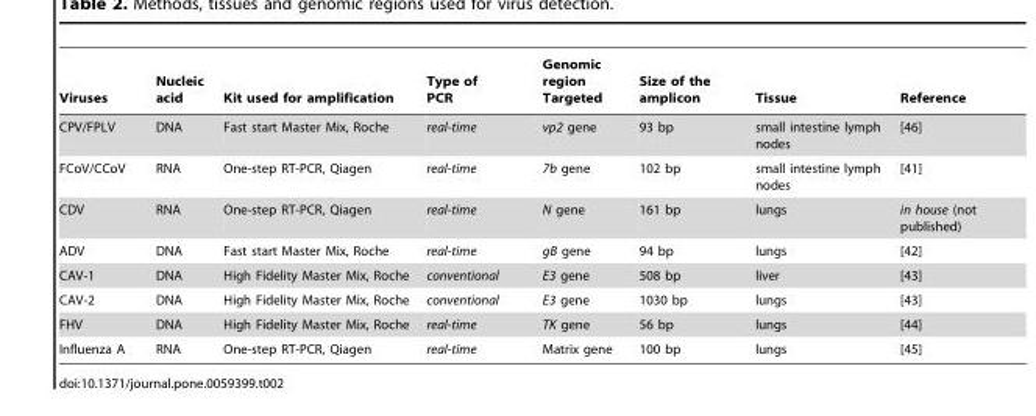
<table><thead><tr><td>Viruses</td><td>Nucleic acid</td><td>Kit used for amplification</td><td>Type of PCR</td><td>Genomic region Targeted</td><td>Size of the amplicon</td><td>Tissue</td><td>Reference</td></tr></thead><tbody><tr><td>CPV/FPLV</td><td>DNA</td><td>Fast start Master Mix, Roche</td><td>real-time</td><td>vp2 gene</td><td>93 bp</td><td>small intestine lymph nodes</td><td>[46]</td></tr><tr><td>FCoV/CCoV</td><td>RNA</td><td>One-step RT-PCR, Qiagen</td><td>real-time</td><td>7b gene</td><td>102 bp</td><td>small intestine lymph nodes</td><td>[41]</td></tr><tr><td>CDV</td><td>RNA</td><td>One-step RT-PCR, Qiagen</td><td>real-time</td><td>N gene</td><td>161 bp</td><td>lungs</td><td>in house (not published)</td></tr><tr><td>ADV</td><td>DNA</td><td>Fast start Master Mix, Roche</td><td>real-time</td><td>gB gene</td><td>94 bp</td><td>lungs</td><td>[42]</td></tr><tr><td>CAV-1</td><td>DNA</td><td>High Fidelity Master Mix, Roche</td><td>conventional</td><td>E3 gene</td><td>508 bp</td><td>liver</td><td>[43]</td></tr><tr><td>CAV-2</td><td>DNA</td><td>High Fidelity Master Mix, Roche</td><td>conventional</td><td>E3 gene</td><td>1030 bp</td><td>lungs</td><td>[43]</td></tr><tr><td>FHV</td><td>DNA</td><td>High Fidelity Master Mix, Roche</td><td>real-time</td><td>TK gene</td><td>56 bp</td><td>lungs</td><td>[44]</td></tr><tr><td>Influenza A</td><td>RNA</td><td>One-step RT-PCR, Qiagen</td><td>real-time</td><td>Matrix gene</td><td>100 bp</td><td>lungs</td><td>[45]</td></tr></tbody></table>